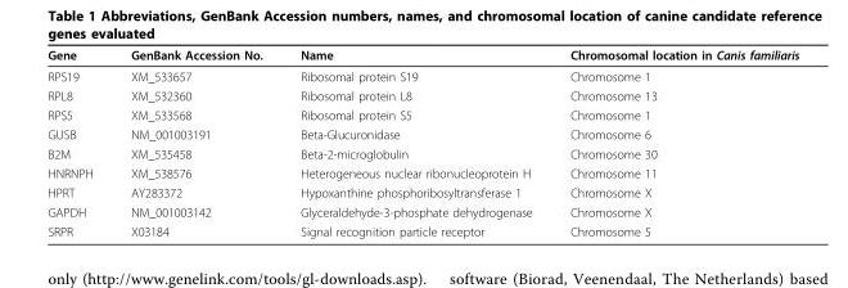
<table><thead><tr><td>Gene</td><td>GenBank Accession No.</td><td>Name</td><td>Chromosomal location in Canis familiaris</td></tr></thead><tbody><tr><td>RPS19</td><td>XM_533657</td><td>Ribosomal protein S19</td><td>Chromosome 1</td></tr><tr><td>RPL8</td><td>XM_532360</td><td>Ribosomal protein L8</td><td>Chromosome 13</td></tr><tr><td>RPS5</td><td>XM_533568</td><td>Ribosomal protein S5</td><td>Chromosome 1</td></tr><tr><td>GUSB</td><td>NM_001003191</td><td>Beta-Glucuronidase</td><td>Chromosome 6</td></tr><tr><td>B2M</td><td>XM_535458</td><td>Beta-2-microglobulin</td><td>Chromosome 30</td></tr><tr><td>HNRNPH</td><td>XM_538576</td><td>Heterogeneous nuclear ribonucleoprotein H</td><td>Chromosome 11</td></tr><tr><td>HPRT</td><td>AY283372</td><td>Hypoxanthine phosphoribosyltransferase 1</td><td>Chromosome X</td></tr><tr><td>GAPDH</td><td>NM_001003142</td><td>Glyceraldehyde-3-phosphate dehydrogenase</td><td>Chromosome X</td></tr><tr><td>SRPR</td><td>X03184</td><td>Signal recognition particle receptor</td><td>Chromosome 5</td></tr></tbody></table>